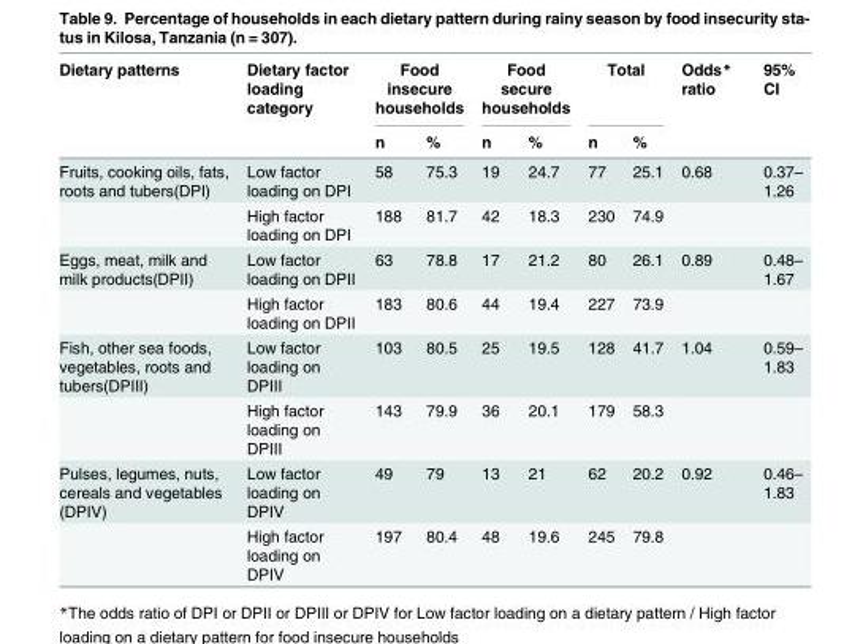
<table><thead><tr><td rowspan="2">Dietary patterns</td><td rowspan="2">Dietary factor loading category</td><td colspan="2">Food insecure households</td><td colspan="2">Food secure households</td><td colspan="2">Total</td><td rowspan="2">Odds* ratio</td><td rowspan="2">95% CI</td></tr><tr><td>n</td><td>%</td><td>n</td><td>%</td><td>n</td><td>%</td></tr></thead><tbody><tr><td rowspan="2">Fruits, cooking oils, fats, roots and tubers(DPI)</td><td>Low factor loading on DPI</td><td>58</td><td>75.3</td><td>19</td><td>24.7</td><td>77</td><td>25.1</td><td>0.68</td><td>0.37– 1.26</td></tr><tr><td>High factor loading on DPI</td><td>188</td><td>81.7</td><td>42</td><td>18.3</td><td>230</td><td>74.9</td><td></td><td></td></tr><tr><td rowspan="2">Eggs, meat, milk and milk products(DPII)</td><td>Low factor loading on DPII</td><td>63</td><td>78.8</td><td>17</td><td>21.2</td><td>80</td><td>26.1</td><td>0.89</td><td>0.48– 1.67</td></tr><tr><td>High factor loading on DPII</td><td>183</td><td>80.6</td><td>44</td><td>19.4</td><td>227</td><td>73.9</td><td></td><td></td></tr><tr><td rowspan="2">Fish, other sea foods, vegetables, roots and tubers(DPIII)</td><td>Low factor loading on DPIII</td><td>103</td><td>80.5</td><td>25</td><td>19.5</td><td>128</td><td>41.7</td><td>1.04</td><td>0.59– 1.83</td></tr><tr><td>High factor loading on DPIII</td><td>143</td><td>79.9</td><td>36</td><td>20.1</td><td>179</td><td>58.3</td><td></td><td></td></tr><tr><td rowspan="2">Pulses, legumes, nuts, cereals and vegetables (DPIV)</td><td>Low factor loading on DPIV</td><td>49</td><td>79</td><td>13</td><td>21</td><td>62</td><td>20.2</td><td>0.92</td><td>0.46– 1.83</td></tr><tr><td>High factor loading on DPIV</td><td>197</td><td>80.4</td><td>48</td><td>19.6</td><td>245</td><td>79.8</td><td></td><td></td></tr></tbody></table>